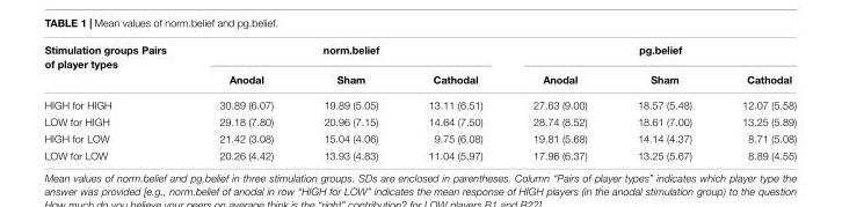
<table><thead><tr><td rowspan="2">Stimulation groups Pairs of player types</td><td colspan="3">norm.belief</td><td colspan="3">pg.belief</td></tr><tr><td>Anodal</td><td>Sham</td><td>Cathodal</td><td>Anodal</td><td>Sham</td><td>Cathodal</td></tr></thead><tbody><tr><td>HIGH for HIGH</td><td>30.89 (6.07)</td><td>19.89 (5.05)</td><td>13.11 (6.51)</td><td>27.63 (9.00)</td><td>18.57 (5.48)</td><td>12.07 (5.58)</td></tr><tr><td>LOW for HIGH</td><td>29.18 (7.80)</td><td>20.96 (7.15)</td><td>14.64 (7.50)</td><td>28.74 (8.52)</td><td>18.61 (7.00)</td><td>13.25 (5.89)</td></tr><tr><td>HIGH for LOW</td><td>21.42 (3.08)</td><td>15.04 (4.06)</td><td>9.75 (6.08)</td><td>19.81 (5.68)</td><td>14.14 (4.37)</td><td>8.71 (5.08)</td></tr><tr><td>LOW for LOW</td><td>20.26 (4.42)</td><td>13.93 (4.83)</td><td>11.04 (5.97)</td><td>17.96 (6.37)</td><td>13.25 (5.67)</td><td>8.89 (4.55)</td></tr></tbody></table>